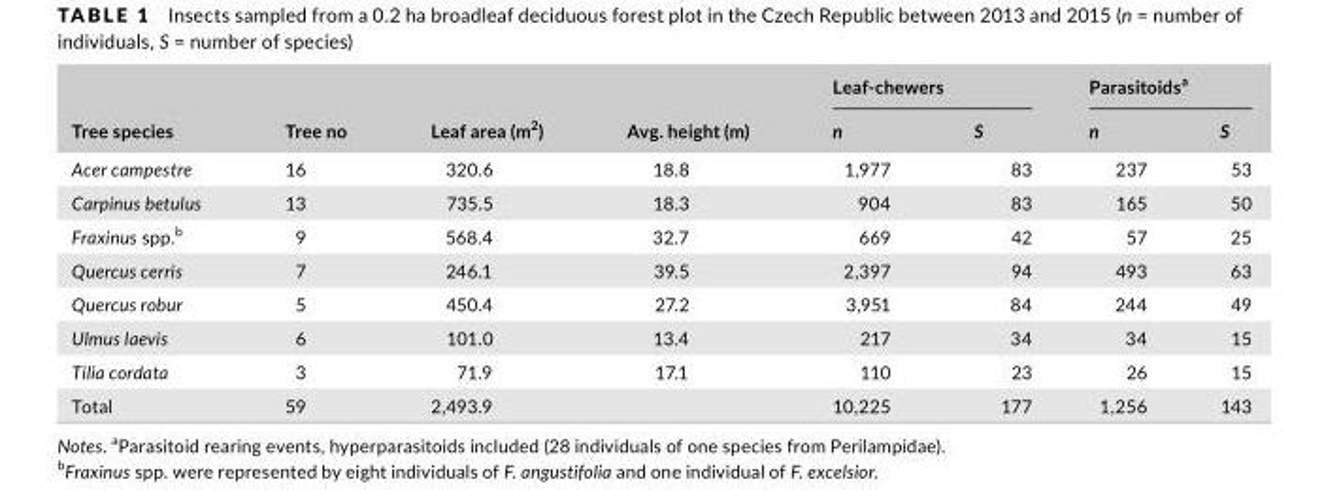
<table><thead><tr><td rowspan="2">Tree species</td><td rowspan="2">Tree no</td><td rowspan="2">Leaf area (m<sup>2</sup>)</td><td rowspan="2">Avg. height (m)</td><td colspan="2">Leaf- chewers</td><td colspan="2">Parasitoids<sup>a</sup></td></tr><tr><td>n</td><td>S</td><td>n</td><td>S</td></tr></thead><tbody><tr><td>Acer campestre</td><td>16</td><td>320.6</td><td>18.8</td><td>1,977</td><td>83</td><td>237</td><td>53</td></tr><tr><td>Carpinus betulus</td><td>13</td><td>735.5</td><td>18.3</td><td>904</td><td>83</td><td>165</td><td>50</td></tr><tr><td>Fraxinus spp.<sup>b</sup></td><td>9</td><td>568.4</td><td>32.7</td><td>669</td><td>42</td><td>57</td><td>25</td></tr><tr><td>Quercus cerris</td><td>7</td><td>246.1</td><td>39.5</td><td>2,397</td><td>94</td><td>493</td><td>63</td></tr><tr><td>Quercus robur</td><td>5</td><td>450.4</td><td>27.2</td><td>3,951</td><td>84</td><td>244</td><td>49</td></tr><tr><td>Ulmus laevis</td><td>6</td><td>101.0</td><td>13.4</td><td>217</td><td>34</td><td>34</td><td>15</td></tr><tr><td>Tilia cordata</td><td>3</td><td>71.9</td><td>17.1</td><td>110</td><td>23</td><td>26</td><td>15</td></tr><tr><td>Total</td><td>59</td><td>2,493.9</td><td></td><td>10,225</td><td>177</td><td>1,256</td><td>143</td></tr></tbody></table>